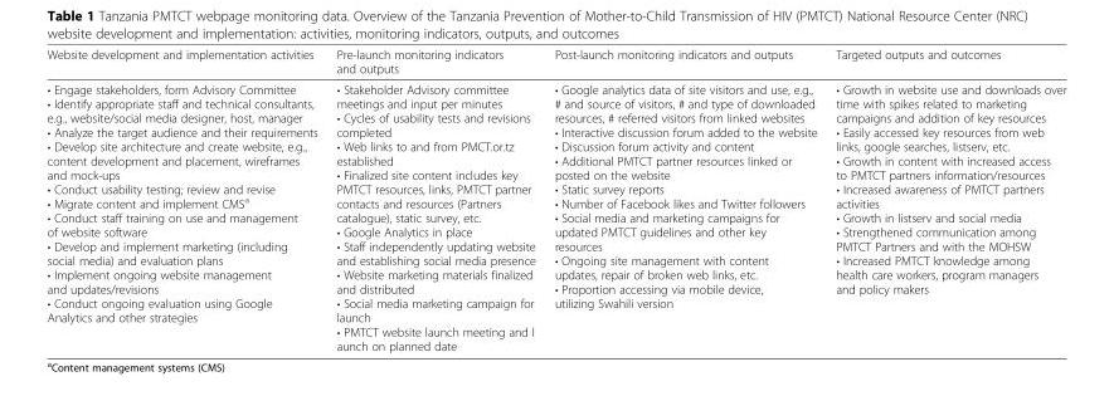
<table><thead><tr><td>Website development and implementation activities</td><td>Pre-launch monitoring indicators and outputs</td><td>Post-launch monitoring indicators and outputs</td><td>Targeted outputs and outcomes</td></tr></thead><tbody><tr><td>• Engage stakeholders, form Advisory Committee • Identify appropriate staff and technical consultants, e.g., website/social media designer, host, manager • Analyze the target audience and their requirements • Develop site architecture and create website, e.g., content development and placement, wireframes and mock-ups • Conduct usability testing; review and revise • Migrate content and implement CMS<sup>a</sup> • Conduct staff training on use and management of website software • Develop and implement marketing (including social media) and evaluation plans • Implement ongoing website management and updates/revisions • Conduct ongoing evaluation using Google Analytics and other strategies</td><td>• Stakeholder Advisory committee meetings and input per minutes • Cycles of usability tests and revisions completed • Web links to and from PMCT.or.tz established • Finalized site content includes key PMTCT resources, links, PMTCT partner contacts and resources (Partners catalogue), static survey, etc. • Google Analytics in place • Staff independently updating website and establishing social media presence • Website marketing materials finalized and distributed • Social media marketing campaign for launch • PMTCT website launch meeting and l aunch on planned date</td><td>• Google analytics data of site visitors and use, e.g., # and source of visitors, # and type of downloaded resources, # referred visitors from linked websites • Interactive discussion forum added to the website • Discussion forum activity and content • Additional PMTCT partner resources linked or posted on the website • Static survey reports • Number of Facebook likes and Twitter followers • Social media and marketing campaigns for updated PMTCT guidelines and other key resources • Ongoing site management with content updates, repair of broken web links, etc. • Proportion accessing via mobile device, utilizing Swahili version</td><td>• Growth in website use and downloads over time with spikes related to marketing campaigns and addition of key resources • Easily accessed key resources from web links, google searches, listserv, etc. • Growth in content with increased access to PMTCT partners information/resources • Increased awareness of PMTCT partners activities • Growth in listserv and social media • Strengthened communication among PMTCT Partners and with the MOHSW • Increased PMTCT knowledge among health care workers, program managers and policy makers</td></tr></tbody></table>